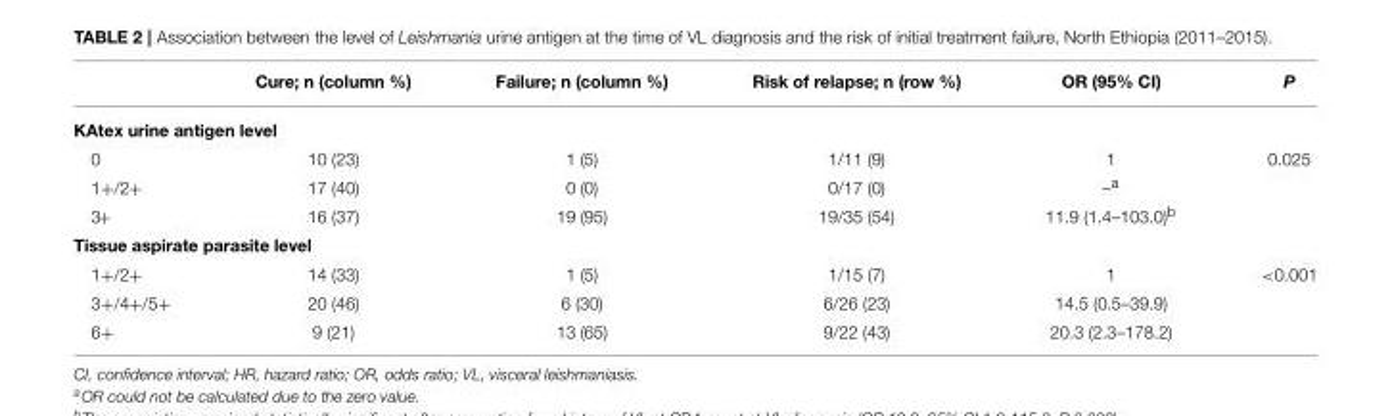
<table><thead><tr><td></td><td>Cure; n (column %)</td><td>Failure; n (column %)</td><td>Risk of relapse; n (row %)</td><td>OR (95% CI)</td><td>P</td></tr></thead><tbody><tr><td colspan="6">KAtex urine antigen level</td></tr><tr><td>0</td><td>10 (23)</td><td>1 (5)</td><td>1/11 (9)</td><td>1</td><td>0.025</td></tr><tr><td>1+/2+</td><td>17 (40)</td><td>0 (0)</td><td>0/17 (0)</td><td>–<sup>a</sup></td><td></td></tr><tr><td>3+</td><td>16 (37)</td><td>19 (95)</td><td>19/35 (54)</td><td>11.9 (1.4–103.0)<sup>b</sup></td><td></td></tr><tr><td colspan="6">Tissue aspirate parasite level</td></tr><tr><td>1+/2+</td><td>14 (33)</td><td>1 (5)</td><td>1/15 (7)</td><td>1</td><td>&lt;0.001</td></tr><tr><td>3+/4+/5+</td><td>20 (46)</td><td>6 (30)</td><td>6/26 (23)</td><td>14.5 (0.5–39.9)</td><td></td></tr><tr><td>6+</td><td>9 (21)</td><td>13 (65)</td><td>9/22 (43)</td><td>20.3 (2.3–178.2)</td><td></td></tr></tbody></table>